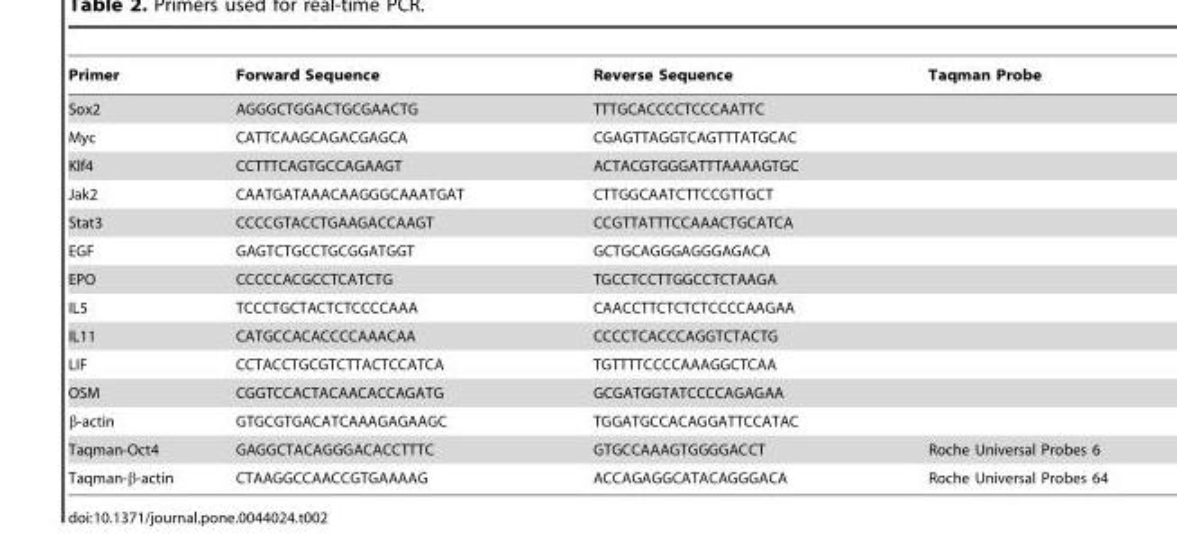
<table><thead><tr><td>Primer</td><td>Forward Sequence</td><td>Reverse Sequence</td><td>Taqman Probe</td></tr></thead><tbody><tr><td>Sox2</td><td>AGGGCTGGACTGCGAACTG</td><td>TTTGCACCCCTCCCAATTC</td><td></td></tr><tr><td>Myc</td><td>CATTCAAGCAGACGAGCA</td><td>CGAGTTAGGTCAGTTTATGCAC</td><td></td></tr><tr><td>Klf4</td><td>CCTTTCAGTGCCAGAAGT</td><td>ACTACGTGGGATTTAAAAGTGC</td><td></td></tr><tr><td>Jak2</td><td>CAATGATAAACAAGGGCAAATGAT</td><td>CTTGGCAATCTTCCGTTGCT</td><td></td></tr><tr><td>Stat3</td><td>CCCCGTACCTGAAGACCAAGT</td><td>CCGTTATTTCCAAACTGCATCA</td><td></td></tr><tr><td>EGF</td><td>GAGTCTGCCTGCGGATGGT</td><td>GCTGCAGGGAGGGAGACA</td><td></td></tr><tr><td>EPO</td><td>CCCCCACGCCTCATCTG</td><td>TGCCTCCTTGGCCTCTAAGA</td><td></td></tr><tr><td>IL5</td><td>TCCCTGCTACTCTCCCCAAA</td><td>CAACCTTCTCTCTCCCCAAGAA</td><td></td></tr><tr><td>IL11</td><td>CATGCCACACCCCAAACAA</td><td>CCCCTCACCCAGGTCTACTG</td><td></td></tr><tr><td>LIF</td><td>CCTACCTGCGTCTTACTCCATCA</td><td>TGTTTTCCCCAAAGGCTCAA</td><td></td></tr><tr><td>OSM</td><td>CGGTCCACTACAACACCAGATG</td><td>GCGATGGTATCCCCAGAGAA</td><td></td></tr><tr><td>β-actin</td><td>GTGCGTGACATCAAAGAGAAGC</td><td>TGGATGCCACAGGATTCCATAC</td><td></td></tr><tr><td>Taqman-Oct4</td><td>GAGGCTACAGGGACACCTTTC</td><td>GTGCCAAAGTGGGGACCT</td><td>Roche Universal Probes 6</td></tr><tr><td>Taqman-β-actin</td><td>CTAAGGCCAACCGTGAAAAG</td><td>ACCAGAGGCATACAGGGACA</td><td>Roche Universal Probes 64</td></tr></tbody></table>